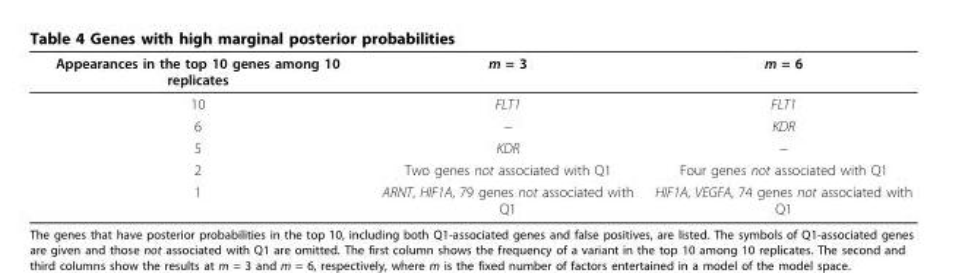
<table><thead><tr><td>Appearances in the top 10 genes among 10 replicates</td><td>m = 3</td><td>m = 6</td></tr></thead><tbody><tr><td>10</td><td>FLT1</td><td>FLT1</td></tr><tr><td>6</td><td>−</td><td>KDR</td></tr><tr><td>5</td><td>KDR</td><td>−</td></tr><tr><td>2</td><td>Two genes not associated with Q1</td><td>Four genes not associated with Q1</td></tr><tr><td>1</td><td>ARNT, HIF1A, 79 genes not associated with Q1</td><td>HIF1A, VEGFA, 74 genes not associated with Q1</td></tr></tbody></table>